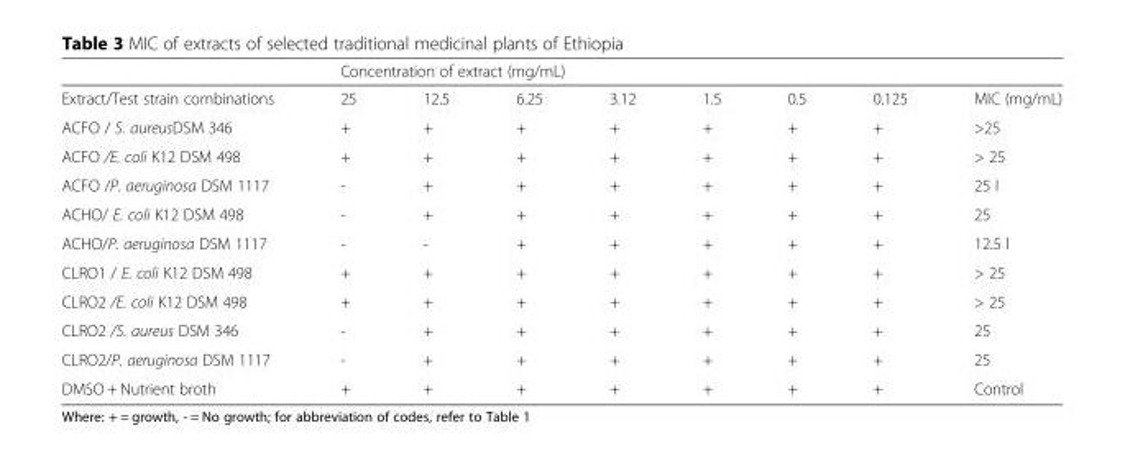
<table><thead><tr><td rowspan="2">Extract/Test strain combinations</td><td colspan="7">Concentration of extract (mg/mL)</td><td rowspan="2">MIC (mg/mL)</td></tr><tr><td>25</td><td>12.5</td><td>6.25</td><td>3.12</td><td>1.5</td><td>0.5</td><td>0.125</td></tr></thead><tbody><tr><td>ACFO / S. aureusDSM 346</td><td>+</td><td>+</td><td>+</td><td>+</td><td>+</td><td>+</td><td>+</td><td>&gt;25</td></tr><tr><td>ACFO /E. coli K12 DSM 498</td><td>+</td><td>+</td><td>+</td><td>+</td><td>+</td><td>+</td><td>+</td><td>&gt; 25</td></tr><tr><td>ACFO /P. aeruginosa DSM 1117</td><td>-</td><td>+</td><td>+</td><td>+</td><td>+</td><td>+</td><td>+</td><td>25 l</td></tr><tr><td>ACHO/ E. coli K12 DSM 498</td><td>-</td><td>+</td><td>+</td><td>+</td><td>+</td><td>+</td><td>+</td><td>25</td></tr><tr><td>ACHO/P. aeruginosa DSM 1117</td><td>-</td><td>-</td><td>+</td><td>+</td><td>+</td><td>+</td><td>+</td><td>12.5 l</td></tr><tr><td>CLRO1 / E. coli K12 DSM 498</td><td>+</td><td>+</td><td>+</td><td>+</td><td>+</td><td>+</td><td>+</td><td>&gt; 25</td></tr><tr><td>CLRO2 /E. coli K12 DSM 498</td><td>+</td><td>+</td><td>+</td><td>+</td><td>+</td><td>+</td><td>+</td><td>&gt; 25</td></tr><tr><td>CLRO2 /S. aureus DSM 346</td><td>-</td><td>+</td><td>+</td><td>+</td><td>+</td><td>+</td><td>+</td><td>25</td></tr><tr><td>CLRO2/P. aeruginosa DSM 1117</td><td>-</td><td>+</td><td>+</td><td>+</td><td>+</td><td>+</td><td>+</td><td>25</td></tr><tr><td>DMSO + Nutrient broth</td><td>+</td><td>+</td><td>+</td><td>+</td><td>+</td><td>+</td><td>+</td><td>Control</td></tr></tbody></table>